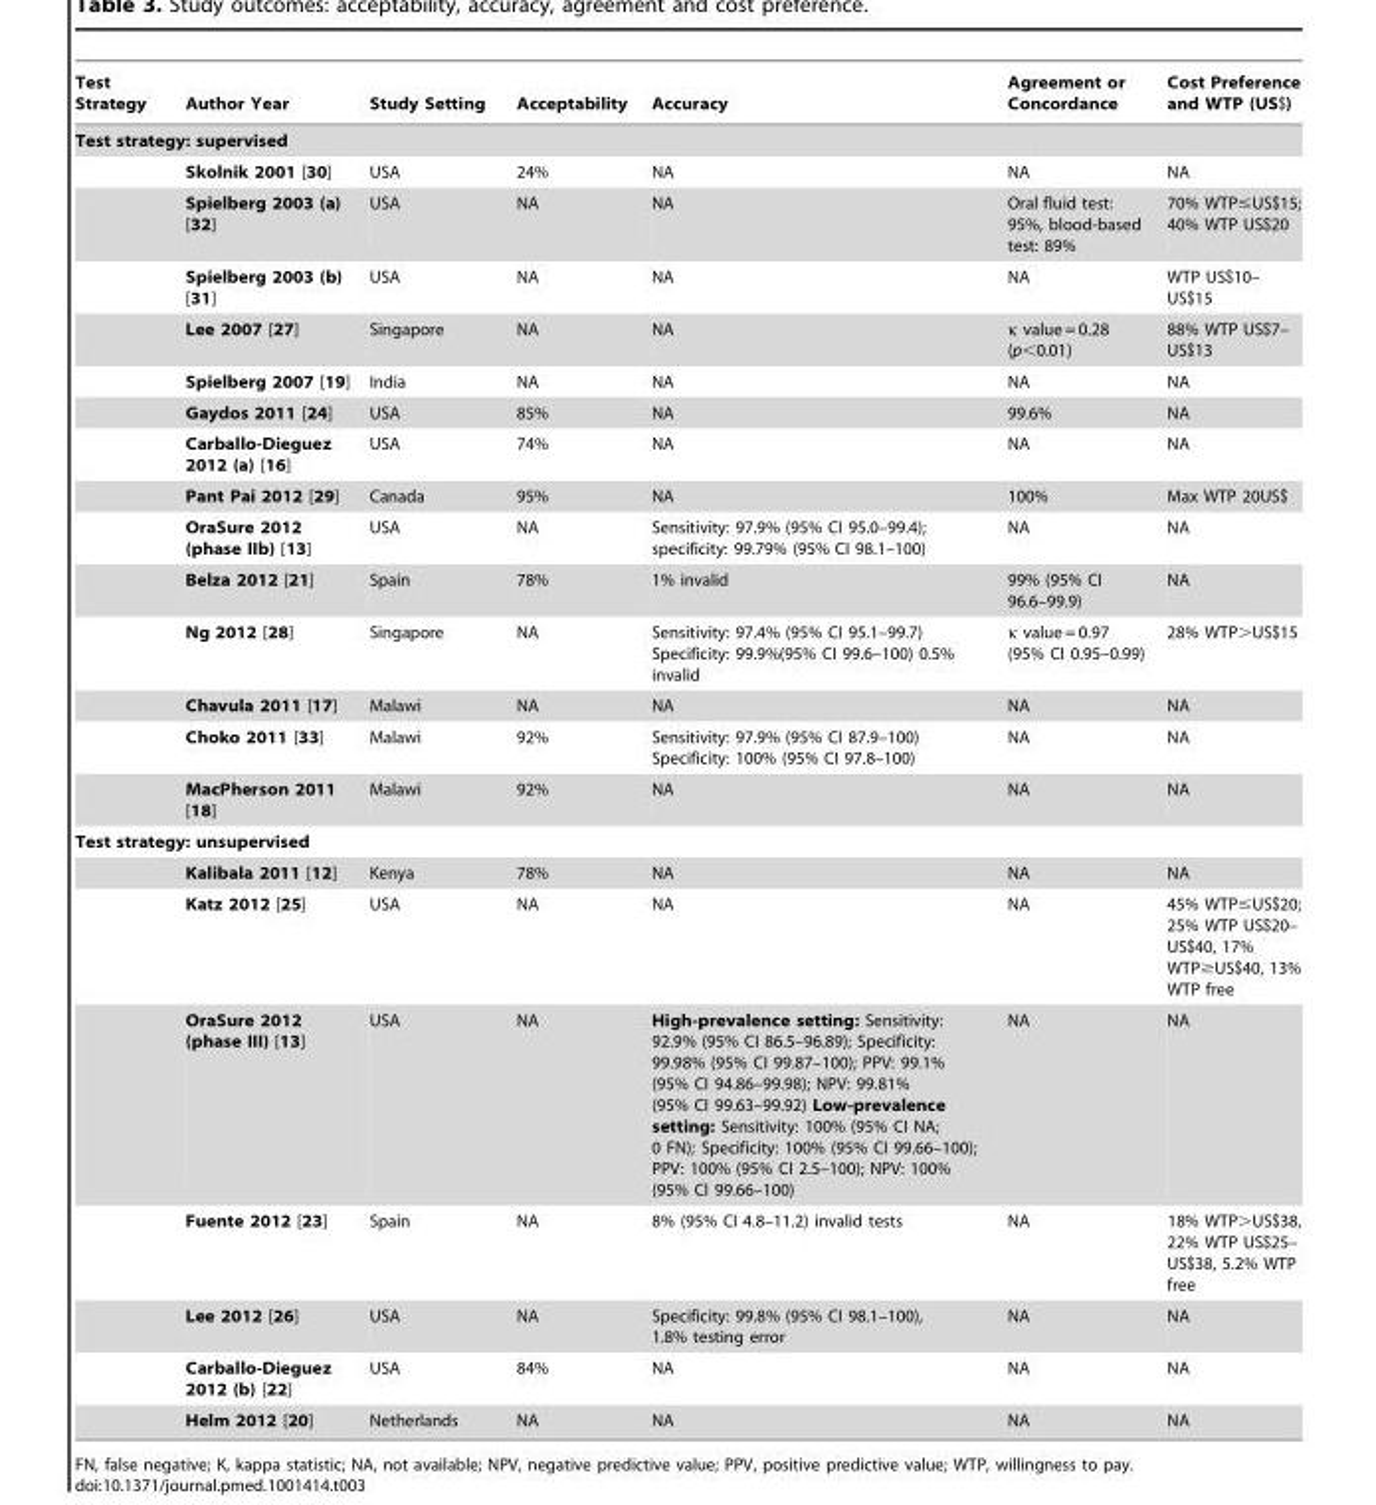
<table><thead><tr><td>Test Strategy</td><td>Author Year</td><td>Study Setting</td><td>Acceptability</td><td>Accuracy</td><td>Agreement or Concordance</td><td>Cost Preference and WTP (US$)</td></tr></thead><tbody><tr><td colspan="7">Test strategy: supervised</td></tr><tr><td></td><td>Skolnik 2001 [30]</td><td>USA</td><td>24%</td><td>NA</td><td>NA</td><td>NA</td></tr><tr><td></td><td>Spielberg 2003 (a) [32]</td><td>USA</td><td>NA</td><td>NA</td><td>Oral fluid test: 95%, blood-based test: 89%</td><td>70% WTP≤US$15; 40% WTP US$20</td></tr><tr><td></td><td>Spielberg 2003 (b) [31]</td><td>USA</td><td>NA</td><td>NA</td><td>NA</td><td>WTP US$10– US$15</td></tr><tr><td></td><td>Lee 2007 [27]</td><td>Singapore</td><td>NA</td><td>NA</td><td>κ value = 0.28 (p&lt;0.01)</td><td>88% WTP US$7– US$13</td></tr><tr><td></td><td>Spielberg 2007 [19]</td><td>India</td><td>NA</td><td>NA</td><td>NA</td><td>NA</td></tr><tr><td></td><td>Gaydos 2011 [24]</td><td>USA</td><td>85%</td><td>NA</td><td>99.6%</td><td>NA</td></tr><tr><td></td><td>Carballo-Dieguez 2012 (a) [16]</td><td>USA</td><td>74%</td><td>NA</td><td>NA</td><td>NA</td></tr><tr><td></td><td>Pant Pai 2012 [29]</td><td>Canada</td><td>95%</td><td>NA</td><td>100%</td><td>Max WTP 20US$</td></tr><tr><td></td><td>OraSure 2012 (phase IIb) [13]</td><td>USA</td><td>NA</td><td>Sensitivity: 97.9% (95% CI 95.0–99.4); specificity: 99.79% (95% CI 98.1–100)</td><td>NA</td><td>NA</td></tr><tr><td></td><td>Belza 2012 [21]</td><td>Spain</td><td>78%</td><td>1% invalid</td><td>99% (95% CI 96.6–99.9)</td><td>NA</td></tr><tr><td></td><td>Ng 2012 [28]</td><td>Singapore</td><td>NA</td><td>Sensitivity: 97.4% (95% CI 95.1–99.7) Specificity: 99.9%(95% CI 99.6–100) 0.5% invalid</td><td>κ value = 0.97 (95% CI 0.95–0.99)</td><td>28% WTP&gt;US$15</td></tr><tr><td></td><td>Chavula 2011 [17]</td><td>Malawi</td><td>NA</td><td>NA</td><td>NA</td><td>NA</td></tr><tr><td></td><td>Choko 2011 [33]</td><td>Malawi</td><td>92%</td><td>Sensitivity: 97.9% (95% CI 87.9–100) Specificity: 100% (95% CI 97.8–100)</td><td>NA</td><td>NA</td></tr><tr><td></td><td>MacPherson 2011 [18]</td><td>Malawi</td><td>92%</td><td>NA</td><td>NA</td><td>NA</td></tr><tr><td colspan="7">Test strategy: unsupervised</td></tr><tr><td></td><td>Kalibala 2011 [12]</td><td>Kenya</td><td>78%</td><td>NA</td><td>NA</td><td>NA</td></tr><tr><td></td><td>Katz 2012 [25]</td><td>USA</td><td>NA</td><td>NA</td><td>NA</td><td>45% WTP≤US$20; 25% WTP US$20– US$40, 17% WTP≥US$40, 13% WTP free</td></tr><tr><td></td><td>OraSure 2012 (phase III) [13]</td><td>USA</td><td>NA</td><td>High-prevalence setting: Sensitivity: 92.9% (95% CI 86.5–96.89); Specificity: 99.98% (95% CI 99.87–100); PPV: 99.1% (95% CI 94.86–99.98); NPV: 99.81% (95% CI 99.63–99.92) Low-prevalence setting: Sensitivity: 100% (95% CI NA; 0 FN); Specificity: 100% (95% CI 99.66–100); PPV: 100% (95% CI 2.5–100); NPV: 100% (95% CI 99.66–100)</td><td>NA</td><td>NA</td></tr><tr><td></td><td>Fuente 2012 [23]</td><td>Spain</td><td>NA</td><td>8% (95% CI 4.8–11.2) invalid tests</td><td>NA</td><td>18% WTP&gt;US$38, 22% WTP US$25– US$38, 5.2% WTP free</td></tr><tr><td></td><td>Lee 2012 [26]</td><td>USA</td><td>NA</td><td>Specificity: 99.8% (95% CI 98.1–100), 1.8% testing error</td><td>NA</td><td>NA</td></tr><tr><td></td><td>Carballo-Dieguez 2012 (b) [22]</td><td>USA</td><td>84%</td><td>NA</td><td>NA</td><td>NA</td></tr><tr><td></td><td>Helm 2012 [20]</td><td>Netherlands</td><td>NA</td><td>NA</td><td>NA</td><td>NA</td></tr></tbody></table>